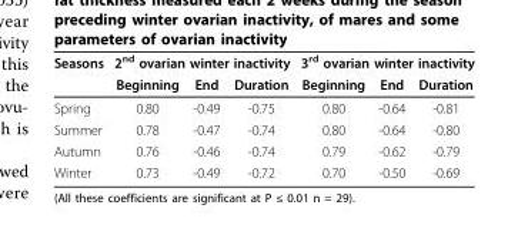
<table><thead><tr><td rowspan="2">Seasons</td><td colspan="3">2<sup>nd</sup> ovarian winter inactivity</td><td colspan="3">3<sup>rd</sup> ovarian winter inactivity</td></tr><tr><td>Beginning</td><td>End</td><td>Duration</td><td>Beginning</td><td>End</td><td>Duration</td></tr></thead><tbody><tr><td>Spring</td><td>0.80</td><td>-0.49</td><td>-0.75</td><td>0.80</td><td>-0.64</td><td>-0.81</td></tr><tr><td>Summer</td><td>0.78</td><td>-0.47</td><td>-0.74</td><td>0.80</td><td>-0.64</td><td>-0.80</td></tr><tr><td>Autumn</td><td>0.76</td><td>-0.46</td><td>-0.74</td><td>0.79</td><td>-0.62</td><td>-0.79</td></tr><tr><td>Winter</td><td>0.73</td><td>-0.49</td><td>-0.72</td><td>0.70</td><td>-0.50</td><td>-0.69</td></tr></tbody></table>